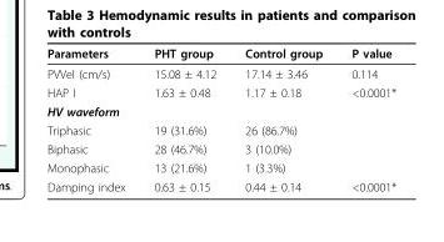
<table><thead><tr><td>Parameters</td><td>PHT group</td><td>Control group</td><td>P value</td></tr></thead><tbody><tr><td>PVVel (cm/s)</td><td>15.08 ± 4.12</td><td>17.14 ± 3.46</td><td>0.114</td></tr><tr><td>HAP I</td><td>1.63 ± 0.48</td><td>1.17 ± 0.18</td><td>&lt;0.0001*</td></tr><tr><td colspan="4">HV waveform</td></tr><tr><td>Triphasic</td><td>19 (31.6%)</td><td>26 (86.7%)</td><td></td></tr><tr><td>Biphasic</td><td>28 (46.7%)</td><td>3 (10.0%)</td><td></td></tr><tr><td>Monophasic</td><td>13 (21.6%)</td><td>1 (3.3%)</td><td></td></tr><tr><td>Damping index</td><td>0.63 ± 0.15</td><td>0.44 ± 0.14</td><td>&lt;0.0001*</td></tr></tbody></table>